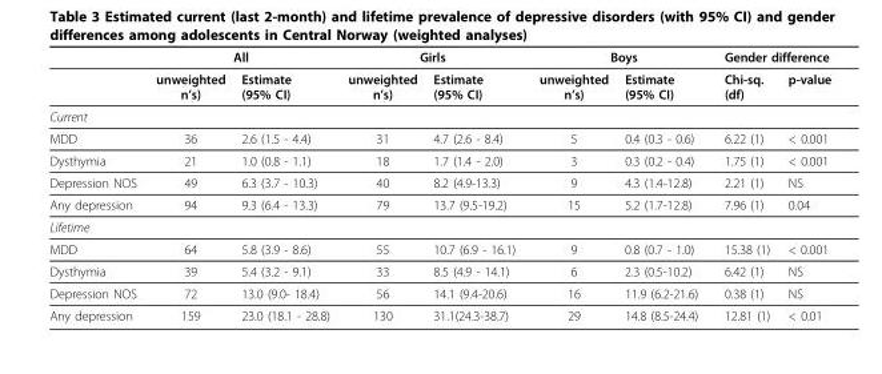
<table><thead><tr><td rowspan="2"></td><td colspan="2">All</td><td colspan="2">Girls</td><td colspan="2">Boys</td><td colspan="2">Gender difference</td></tr><tr><td>unweighted n’s)</td><td>Estimate (95% CI)</td><td>unweighted n’s)</td><td>Estimate (95% CI)</td><td>unweighted n’s)</td><td>Estimate (95% CI)</td><td>Chi-sq. (df)</td><td>p-value</td></tr></thead><tbody><tr><td colspan="9">Current</td></tr><tr><td>MDD</td><td>36</td><td>2.6 (1.5 - 4.4)</td><td>31</td><td>4.7 (2.6 - 8.4)</td><td>5</td><td>0.4 (0.3 - 0.6)</td><td>6.22 (1)</td><td>&lt; 0.001</td></tr><tr><td>Dysthymia</td><td>21</td><td>1.0 (0.8 - 1.1)</td><td>18</td><td>1.7 (1.4 - 2.0)</td><td>3</td><td>0.3 (0.2 - 0.4)</td><td>1.75 (1)</td><td>&lt; 0.001</td></tr><tr><td>Depression NOS</td><td>49</td><td>6.3 (3.7 - 10.3)</td><td>40</td><td>8.2 (4.9-13.3)</td><td>9</td><td>4.3 (1.4-12.8)</td><td>2.21 (1)</td><td>NS</td></tr><tr><td>Any depression</td><td>94</td><td>9.3 (6.4 - 13.3)</td><td>79</td><td>13.7 (9.5-19.2)</td><td>15</td><td>5.2 (1.7-12.8)</td><td>7.96 (1)</td><td>0.04</td></tr><tr><td colspan="9">Lifetime</td></tr><tr><td>MDD</td><td>64</td><td>5.8 (3.9 - 8.6)</td><td>55</td><td>10.7 (6.9 - 16.1)</td><td>9</td><td>0.8 (0.7 - 1.0)</td><td>15.38 (1)</td><td>&lt; 0.001</td></tr><tr><td>Dysthymia</td><td>39</td><td>5.4 (3.2 - 9.1)</td><td>33</td><td>8.5 (4.9 - 14.1)</td><td>6</td><td>2.3 (0.5-10.2)</td><td>6.42 (1)</td><td>NS</td></tr><tr><td>Depression NOS</td><td>72</td><td>13.0 (9.0- 18.4)</td><td>56</td><td>14.1 (9.4-20.6)</td><td>16</td><td>11.9 (6.2-21.6)</td><td>0.38 (1)</td><td>NS</td></tr><tr><td>Any depression</td><td>159</td><td>23.0 (18.1 - 28.8)</td><td>130</td><td>31.1(24.3-38.7)</td><td>29</td><td>14.8 (8.5-24.4)</td><td>12.81 (1)</td><td>&lt; 0.01</td></tr></tbody></table>